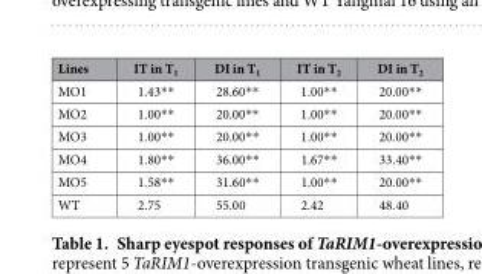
<table><thead><tr><td>Lines</td><td>IT in T<sub>1</sub></td><td>DI in T<sub>1</sub></td><td>IT in T<sub>2</sub></td><td>DI in T<sub>2</sub></td></tr></thead><tbody><tr><td>MO1</td><td>1.43* *</td><td>28.60* *</td><td>1.00* *</td><td>20.00* *</td></tr><tr><td>MO2</td><td>1.00* *</td><td>20.00* *</td><td>1.00* *</td><td>20.00* *</td></tr><tr><td>MO3</td><td>1.00* *</td><td>20.00* *</td><td>1.00* *</td><td>20.00* *</td></tr><tr><td>MO4</td><td>1.80* *</td><td>36.00* *</td><td>1.67* *</td><td>33.40* *</td></tr><tr><td>MO5</td><td>1.58* *</td><td>31.60* *</td><td>1.00* *</td><td>20.00* *</td></tr><tr><td>WT</td><td>2.75</td><td>55.00</td><td>2.42</td><td>48.40</td></tr></tbody></table>